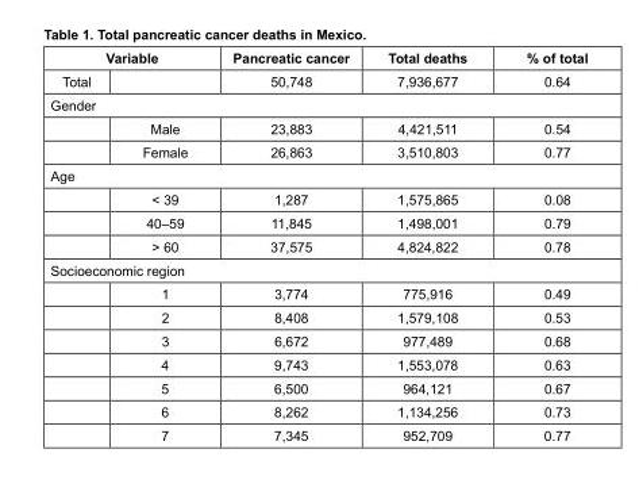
<table><thead><tr><td colspan="2">Variable</td><td rowspan="2">Pancreatic cancer 50,748</td><td rowspan="2">Total deaths 7,936,677</td><td rowspan="2">% of total 0.64</td></tr><tr><td>Total</td><td></td></tr></thead><tbody><tr><td colspan="5">Gender</td></tr><tr><td></td><td>Male</td><td>23,883</td><td>4,421,511</td><td>0.54</td></tr><tr><td></td><td>Female</td><td>26,863</td><td>3,510,803</td><td>0.77</td></tr><tr><td colspan="5">Age</td></tr><tr><td></td><td>&lt; 39</td><td>1,287</td><td>1,575,865</td><td>0.08</td></tr><tr><td></td><td>40–59</td><td>11,845</td><td>1,498,001</td><td>0.79</td></tr><tr><td></td><td>&gt; 60</td><td>37,575</td><td>4,824,822</td><td>0.78</td></tr><tr><td colspan="5">Socioeconomic region</td></tr><tr><td></td><td>1</td><td>3,774</td><td>775,916</td><td>0.49</td></tr><tr><td></td><td>2</td><td>8,408</td><td>1,579,108</td><td>0.53</td></tr><tr><td></td><td>3</td><td>6,672</td><td>977,489</td><td>0.68</td></tr><tr><td></td><td>4</td><td>9,743</td><td>1,553,078</td><td>0.63</td></tr><tr><td></td><td>5</td><td>6,500</td><td>964,121</td><td>0.67</td></tr><tr><td></td><td>6</td><td>8,262</td><td>1,134,256</td><td>0.73</td></tr><tr><td></td><td>7</td><td>7,345</td><td>952,709</td><td>0.77</td></tr></tbody></table>